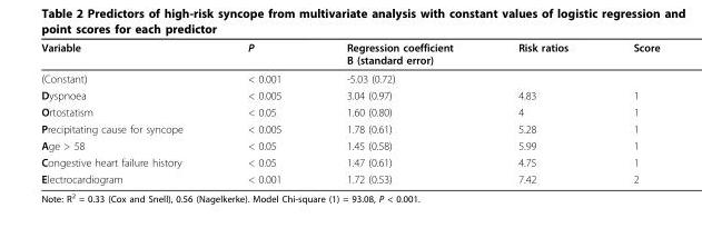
<table><thead><tr><td>Variable</td><td>P</td><td>Regression coefficient B (standard error)</td><td>Risk ratios</td><td>Score</td></tr></thead><tbody><tr><td>(Constant)</td><td>&lt; 0.001</td><td>-5.03 (0.72)</td><td></td><td></td></tr><tr><td>Dyspnoea</td><td>&lt; 0.005</td><td>3.04 (0.97)</td><td>4.83</td><td>1</td></tr><tr><td>Ortostatism</td><td>&lt; 0.05</td><td>1.60 (0.80)</td><td>4</td><td>1</td></tr><tr><td>Precipitating cause for syncope</td><td>&lt; 0.005</td><td>1.78 (0.61)</td><td>5.28</td><td>1</td></tr><tr><td>Age &gt; 58</td><td>&lt; 0.05</td><td>1.45 (0.58)</td><td>5.99</td><td>1</td></tr><tr><td>Congestive heart failure history</td><td>&lt; 0.05</td><td>1.47 (0.61)</td><td>4.75</td><td>1</td></tr><tr><td>Electrocardiogram</td><td>&lt; 0.001</td><td>1.72 (0.53)</td><td>7.42</td><td>2</td></tr></tbody></table>